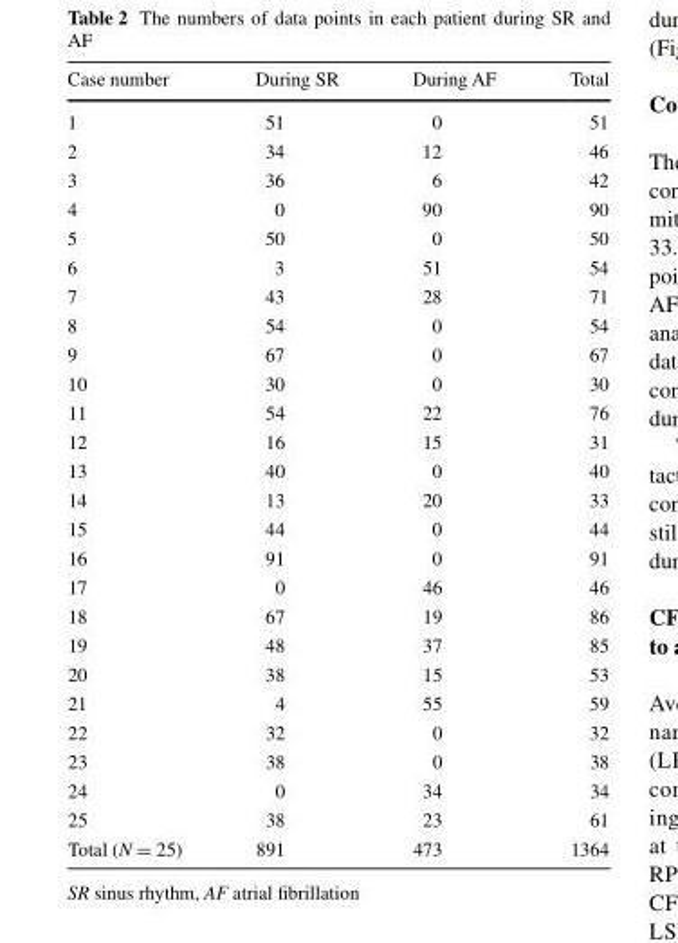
<table><thead><tr><td>Case number</td><td>During SR</td><td>During AF</td><td>Total</td></tr></thead><tbody><tr><td>1</td><td>51</td><td>0</td><td>51</td></tr><tr><td>2</td><td>34</td><td>12</td><td>46</td></tr><tr><td>3</td><td>36</td><td>6</td><td>42</td></tr><tr><td>4</td><td>0</td><td>90</td><td>90</td></tr><tr><td>5</td><td>50</td><td>0</td><td>50</td></tr><tr><td>6</td><td>3</td><td>51</td><td>54</td></tr><tr><td>7</td><td>43</td><td>28</td><td>71</td></tr><tr><td>8</td><td>54</td><td>0</td><td>54</td></tr><tr><td>9</td><td>67</td><td>0</td><td>67</td></tr><tr><td>10</td><td>30</td><td>0</td><td>30</td></tr><tr><td>11</td><td>54</td><td>22</td><td>76</td></tr><tr><td>12</td><td>16</td><td>15</td><td>31</td></tr><tr><td>13</td><td>40</td><td>0</td><td>40</td></tr><tr><td>14</td><td>13</td><td>20</td><td>33</td></tr><tr><td>15</td><td>44</td><td>0</td><td>44</td></tr><tr><td>16</td><td>91</td><td>0</td><td>91</td></tr><tr><td>17</td><td>0</td><td>46</td><td>46</td></tr><tr><td>18</td><td>67</td><td>19</td><td>86</td></tr><tr><td>19</td><td>48</td><td>37</td><td>85</td></tr><tr><td>20</td><td>38</td><td>15</td><td>53</td></tr><tr><td>21</td><td>4</td><td>55</td><td>59</td></tr><tr><td>22</td><td>32</td><td>0</td><td>32</td></tr><tr><td>23</td><td>38</td><td>0</td><td>38</td></tr><tr><td>24</td><td>0</td><td>34</td><td>34</td></tr><tr><td>25</td><td>38</td><td>23</td><td>61</td></tr><tr><td>Total (N = 25)</td><td>891</td><td>473</td><td>1364</td></tr></tbody></table>